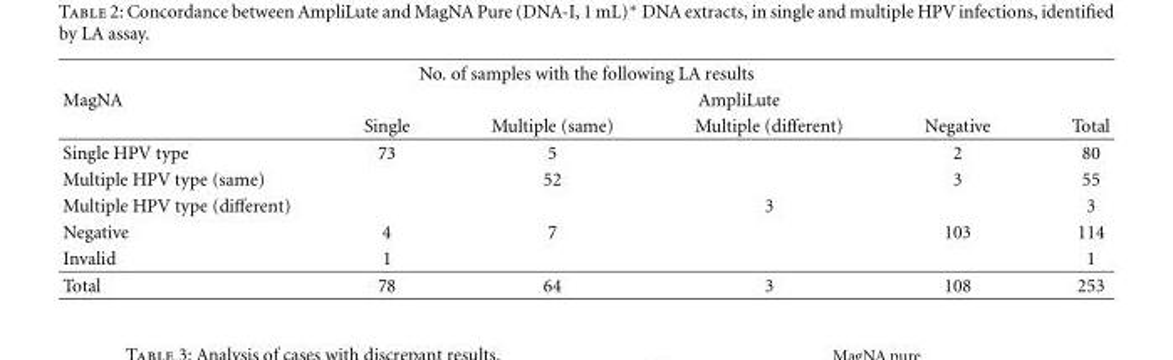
<table><thead><tr><td colspan="6">No. of samples with the following LA results</td></tr><tr><td rowspan="2">MagNA</td><td colspan="5">AmpliLute</td></tr><tr><td>Single</td><td>Multiple (same)</td><td>Multiple (different)</td><td>Negative</td><td>Total</td></tr></thead><tbody><tr><td>Single HPV type</td><td>73</td><td>5</td><td></td><td>2</td><td>80</td></tr><tr><td>Multiple HPV type (same)</td><td></td><td>52</td><td></td><td>3</td><td>55</td></tr><tr><td>Multiple HPV type (different)</td><td></td><td></td><td>3</td><td></td><td>3</td></tr><tr><td>Negative</td><td>4</td><td>7</td><td></td><td>103</td><td>114</td></tr><tr><td>Invalid</td><td>1</td><td></td><td></td><td></td><td>1</td></tr><tr><td>Total</td><td>78</td><td>64</td><td>3</td><td>108</td><td>253</td></tr></tbody></table>